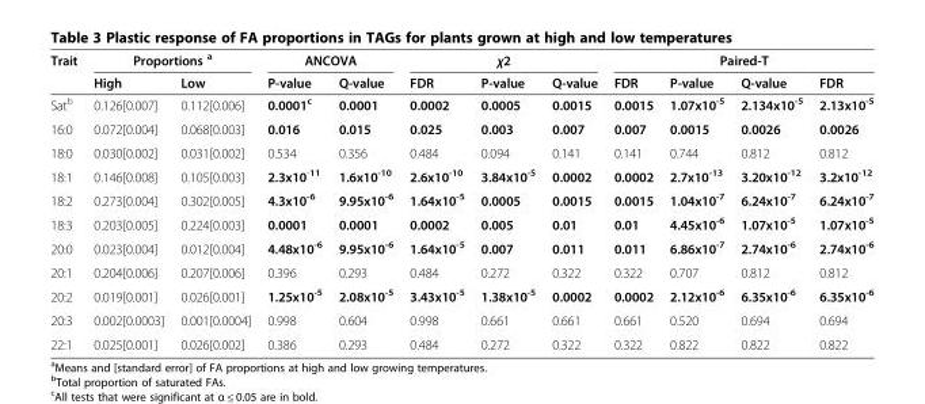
<table><thead><tr><td rowspan="2">Trait</td><td colspan="2">Proportions <sup>a</sup></td><td colspan="2">ANCOVA</td><td colspan="3">χ2</td><td colspan="4">Paired-T</td></tr><tr><td>High</td><td>Low</td><td>P-value</td><td>Q-value</td><td>FDR</td><td>P-value</td><td>Q-value</td><td>FDR</td><td>P-value</td><td>Q-value</td><td>FDR</td></tr></thead><tbody><tr><td>Sat<sup>b</sup></td><td>0.126[0.007]</td><td>0.112[0.006]</td><td>0.0001<sup>c</sup></td><td>0.0001</td><td>0.0002</td><td>0.0005</td><td>0.0015</td><td>0.0015</td><td>1.07x10<sup>-5</sup></td><td>2.134x10<sup>-5</sup></td><td>2.13x10<sup>-5</sup></td></tr><tr><td>16:0</td><td>0.072[0.004]</td><td>0.068[0.003]</td><td>0.016</td><td>0.015</td><td>0.025</td><td>0.003</td><td>0.007</td><td>0.007</td><td>0.0015</td><td>0.0026</td><td>0.0026</td></tr><tr><td>18:0</td><td>0.030[0.002]</td><td>0.031[0.002]</td><td>0.534</td><td>0.356</td><td>0.484</td><td>0.094</td><td>0.141</td><td>0.141</td><td>0.744</td><td>0.812</td><td>0.812</td></tr><tr><td>18:1</td><td>0.146[0.008]</td><td>0.105[0.003]</td><td>2.3x10<sup>-11</sup></td><td>1.6x10<sup>-10</sup></td><td>2.6x10<sup>-10</sup></td><td>3.84x10<sup>-5</sup></td><td>0.0002</td><td>0.0002</td><td>2.7x10<sup>-13</sup></td><td>3.20x10<sup>-12</sup></td><td>3.2x10<sup>-12</sup></td></tr><tr><td>18:2</td><td>0.273[0.004]</td><td>0.302[0.005]</td><td>4.3x10<sup>-6</sup></td><td>9.95x10<sup>-6</sup></td><td>1.64x10<sup>-5</sup></td><td>0.0005</td><td>0.0015</td><td>0.0015</td><td>1.04x10<sup>-7</sup></td><td>6.24x10<sup>-7</sup></td><td>6.24x10<sup>-7</sup></td></tr><tr><td>18:3</td><td>0.203[0.005]</td><td>0.224[0.003]</td><td>0.0001</td><td>0.0001</td><td>0.0002</td><td>0.005</td><td>0.01</td><td>0.01</td><td>4.45x10<sup>-6</sup></td><td>1.07x10<sup>-5</sup></td><td>1.07x10<sup>-5</sup></td></tr><tr><td>20:0</td><td>0.023[0.004]</td><td>0.012[0.004]</td><td>4.48x10<sup>-6</sup></td><td>9.95x10<sup>-6</sup></td><td>1.64x10<sup>-5</sup></td><td>0.007</td><td>0.011</td><td>0.011</td><td>6.86x10<sup>-7</sup></td><td>2.74x10<sup>-6</sup></td><td>2.74x10<sup>-6</sup></td></tr><tr><td>20:1</td><td>0.204[0.006]</td><td>0.207[0.006]</td><td>0.396</td><td>0.293</td><td>0.484</td><td>0.272</td><td>0.322</td><td>0.322</td><td>0.707</td><td>0.812</td><td>0.812</td></tr><tr><td>20:2</td><td>0.019[0.001]</td><td>0.026[0.001]</td><td>1.25x10<sup>-5</sup></td><td>2.08x10<sup>-5</sup></td><td>3.43x10<sup>-5</sup></td><td>1.38x10<sup>-5</sup></td><td>0.0002</td><td>0.0002</td><td>2.12x10<sup>-6</sup></td><td>6.35x10<sup>-6</sup></td><td>6.35x10<sup>-6</sup></td></tr><tr><td>20:3</td><td>0.002[0.0003]</td><td>0.001[0.0004]</td><td>0.998</td><td>0.604</td><td>0.998</td><td>0.661</td><td>0.661</td><td>0.661</td><td>0.520</td><td>0.694</td><td>0.694</td></tr><tr><td>22:1</td><td>0.025[0.001]</td><td>0.026[0.002]</td><td>0.386</td><td>0.293</td><td>0.484</td><td>0.272</td><td>0.322</td><td>0.322</td><td>0.822</td><td>0.822</td><td>0.822</td></tr></tbody></table>